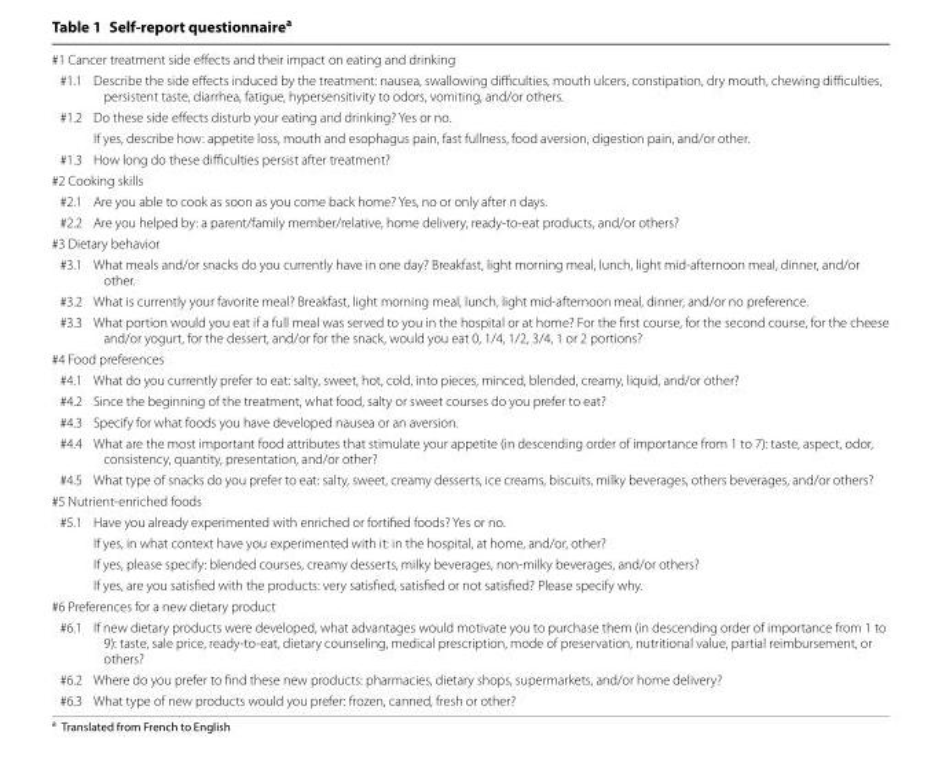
<table><tbody><tr><td colspan="2">#1 Cancer treatment side effects and their impact on eating and drinking</td></tr><tr><td>#1.1</td><td>Describe the side effects induced by the treatment: nausea, swallowing difficulties, mouth ulcers, constipation, dry mouth, chewing difficulties, persistent taste, diarrhea, fatigue, hypersensitivity to odors, vomiting, and/or others.</td></tr><tr><td rowspan="2">#1.2</td><td>Do these side effects disturb your eating and drinking? Yes or no.</td></tr><tr><td>If yes, describe how: appetite loss, mouth and esophagus pain, fast fullness, food aversion, digestion pain, and/or other.</td></tr><tr><td>#1.3</td><td>How long do these difficulties persist after treatment?</td></tr><tr><td colspan="2">#2 Cooking skills</td></tr><tr><td>#2.1</td><td>Are you able to cook as soon as you come back home? Yes, no or only after n days.</td></tr><tr><td>#2.2</td><td>Are you helped by: a parent/family member/relative, home delivery, ready‑to‑eat products, and/or others?</td></tr><tr><td colspan="2">#3 Dietary behavior</td></tr><tr><td>#3.1</td><td>What meals and/or snacks do you currently have in one day? Breakfast, light morning meal, lunch, light mid‑afternoon meal, dinner, and/or other.</td></tr><tr><td>#3.2</td><td>What is currently your favorite meal? Breakfast, light morning meal, lunch, light mid‑afternoon meal, dinner, and/or no preference.</td></tr><tr><td>#3.3</td><td>What portion would you eat if a full meal was served to you in the hospital or at home? For the first course, for the second course, for the cheese and/or yogurt, for the dessert, and/or for the snack, would you eat 0, 1/4, 1/2, 3/4, 1 or 2 portions?</td></tr><tr><td colspan="2">#4 Food preferences</td></tr><tr><td>#4.1</td><td>What do you currently prefer to eat: salty, sweet, hot, cold, into pieces, minced, blended, creamy, liquid, and/or other?</td></tr><tr><td>#4.2</td><td>Since the beginning of the treatment, what food, salty or sweet courses do you prefer to eat?</td></tr><tr><td>#4.3</td><td>Specify for what foods you have developed nausea or an aversion.</td></tr><tr><td>#4.4</td><td>What are the most important food attributes that stimulate your appetite (in descending order of importance from 1 to 7): taste, aspect, odor, consistency, quantity, presentation, and/or other?</td></tr><tr><td>#4.5</td><td>What type of snacks do you prefer to eat: salty, sweet, creamy desserts, ice creams, biscuits, milky beverages, others beverages, and/or others?</td></tr><tr><td colspan="2">#5 Nutrient‑enriched foods</td></tr><tr><td rowspan="4">#5.1</td><td>Have you already experimented with enriched or fortified foods? Yes or no.</td></tr><tr><td>If yes, in what context have you experimented with it: in the hospital, at home, and/or, other?</td></tr><tr><td>If yes, please specify: blended courses, creamy desserts, milky beverages, non‑milky beverages, and/or others?</td></tr><tr><td>If yes, are you satisfied with the products: very satisfied, satisfied or not satisfied? Please specify why.</td></tr><tr><td colspan="2">#6 Preferences for a new dietary product</td></tr><tr><td>#6.1</td><td>If new dietary products were developed, what advantages would motivate you to purchase them (in descending order of importance from 1 to 9): taste, sale price, ready‑to‑eat, dietary counseling, medical prescription, mode of preservation, nutritional value, partial reimbursement, or others?</td></tr><tr><td>#6.2</td><td>Where do you prefer to find these new products: pharmacies, dietary shops, supermarkets, and/or home delivery?</td></tr><tr><td>#6.3</td><td>What type of new products would you prefer: frozen, canned, fresh or other?</td></tr></tbody></table>